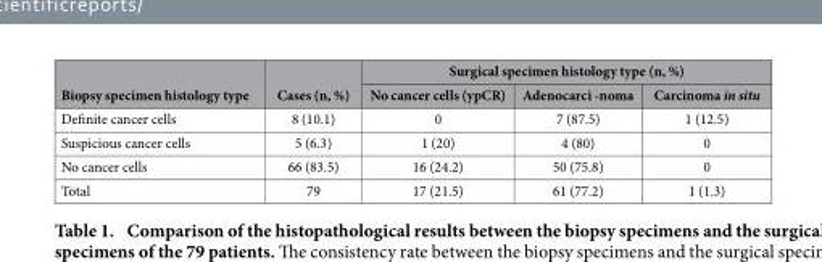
<table><thead><tr><td rowspan="2">Biopsy specimen histology type</td><td rowspan="2">Cases (n, %)</td><td colspan="3">Surgical specimen histology type (n, %)</td></tr><tr><td>No cancer cells (ypCR)</td><td>Adenocarci -noma</td><td>Carcinoma in situ</td></tr></thead><tbody><tr><td>Definite cancer cells</td><td>8 (10.1)</td><td>0</td><td>7 (87.5)</td><td>1 (12.5)</td></tr><tr><td>Suspicious cancer cells</td><td>5 (6.3)</td><td>1 (20)</td><td>4 (80)</td><td>0</td></tr><tr><td>No cancer cells</td><td>66 (83.5)</td><td>16 (24.2)</td><td>50 (75.8)</td><td>0</td></tr><tr><td>Total</td><td>79</td><td>17 (21.5)</td><td>61 (77.2)</td><td>1 (1.3)</td></tr></tbody></table>